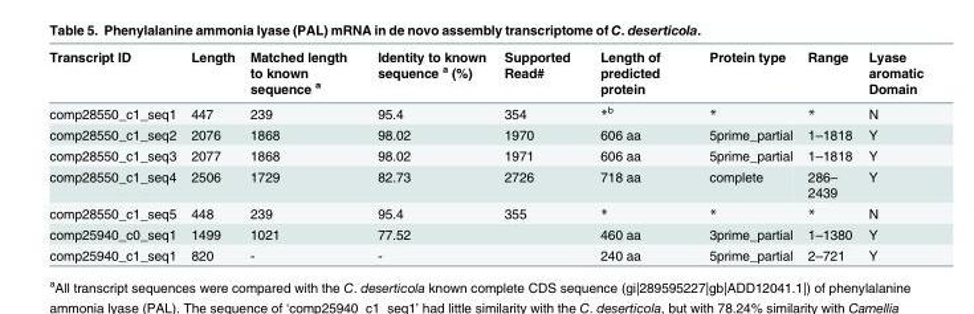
<table><thead><tr><td>Transcript ID</td><td>Length</td><td>Matched length to known sequence <sup>a</sup></td><td>Identity to known sequence <sup>a</sup> (%)</td><td>Supported Read#</td><td>Length of predicted protein</td><td>Protein type</td><td>Range</td><td>Lyase aromatic Domain</td></tr></thead><tbody><tr><td>comp28550_c1_seq1</td><td>447</td><td>239</td><td>95.4</td><td>354</td><td>*<sup>b</sup></td><td>*</td><td>*</td><td>N</td></tr><tr><td>comp28550_c1_seq2</td><td>2076</td><td>1868</td><td>98.02</td><td>1970</td><td>606 aa</td><td>5prime_partial</td><td>1–1818</td><td>Y</td></tr><tr><td>comp28550_c1_seq3</td><td>2077</td><td>1868</td><td>98.02</td><td>1971</td><td>606 aa</td><td>5prime_partial</td><td>1–1818</td><td>Y</td></tr><tr><td>comp28550_c1_seq4</td><td>2506</td><td>1729</td><td>82.73</td><td>2726</td><td>718 aa</td><td>complete</td><td>286– 2439</td><td>Y</td></tr><tr><td>comp28550_c1_seq5</td><td>448</td><td>239</td><td>95.4</td><td>355</td><td>*</td><td>*</td><td>*</td><td>N</td></tr><tr><td>comp25940_c0_seq1</td><td>1499</td><td>1021</td><td>77.52</td><td></td><td>460 aa</td><td>3prime_partial</td><td>1–1380</td><td>Y</td></tr><tr><td>comp25940_c1_seq1</td><td>820</td><td>-</td><td>-</td><td></td><td>240 aa</td><td>5prime_partial</td><td>2–721</td><td>Y</td></tr></tbody></table>